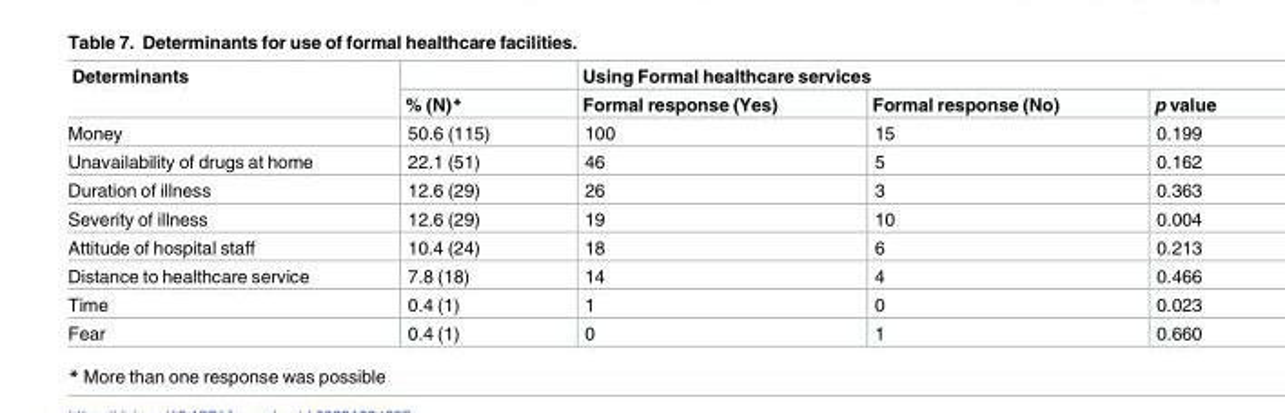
<table><thead><tr><td rowspan="2">Determinants</td><td rowspan="2">% (N)*</td><td colspan="3">Using Formal healthcare services</td></tr><tr><td>Formal response (Yes)</td><td>Formal response (No)</td><td>p value</td></tr></thead><tbody><tr><td>Money</td><td>50.6 (115)</td><td>100</td><td>15</td><td>0.199</td></tr><tr><td>Unavailability of drugs at home</td><td>22.1 (51)</td><td>46</td><td>5</td><td>0.162</td></tr><tr><td>Duration of illness</td><td>12.6 (29)</td><td>26</td><td>3</td><td>0.363</td></tr><tr><td>Severity of illness</td><td>12.6 (29)</td><td>19</td><td>10</td><td>0.004</td></tr><tr><td>Attitude of hospital staff</td><td>10.4 (24)</td><td>18</td><td>6</td><td>0.213</td></tr><tr><td>Distance to healthcare service</td><td>7.8 (18)</td><td>14</td><td>4</td><td>0.466</td></tr><tr><td>Time</td><td>0.4 (1)</td><td>1</td><td>0</td><td>0.023</td></tr><tr><td>Fear</td><td>0.4 (1)</td><td>0</td><td>1</td><td>0.660</td></tr></tbody></table>